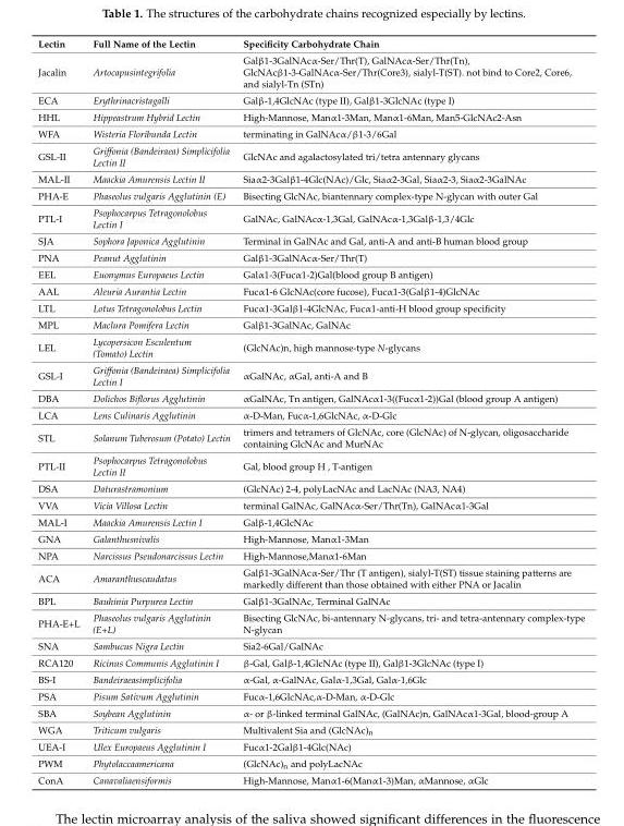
<table><thead><tr><td>Lectin</td><td>Full Name of the Lectin</td><td>Specificity Carbohydrate Chain</td></tr></thead><tbody><tr><td>Jacalin</td><td>Artocapusintegrifolia</td><td>Galβ1-3GalNAcα-Ser/Thr(T), GalNAcα-Ser/Thr(Tn), GlcNAcβ1-3-GalNAcα-Ser/Thr(Core3), sialyl-T(ST). not bind to Core2, Core6, and sialyl-Tn (STn)</td></tr><tr><td>ECA</td><td>Erythrinacristagalli</td><td>Galβ-1,4GlcNAc (type II), Galβ1-3GlcNAc (type I)</td></tr><tr><td>HHL</td><td>Hippeastrum Hybrid Lectin</td><td>High-Mannose, Manα1-3Man, Manα1-6Man, Man5-GlcNAc2-Asn</td></tr><tr><td>WFA</td><td>Wisteria Floribunda Lectin</td><td>terminating in GalNAcα/β1-3/6Gal</td></tr><tr><td>GSL-II</td><td>Griffonia (Bandeiraea) Simplicifolia Lectin II</td><td>GlcNAc and agalactosylated tri/tetra antennary glycans</td></tr><tr><td>MAL-II</td><td>Maackia Amurensis Lectin II</td><td>Siaα2-3Galβ1-4Glc(NAc)/Glc, Siaα2-3Gal, Siaα2-3, Siaα2-3GalNAc</td></tr><tr><td>PHA-E</td><td>Phaseolus vulgaris Agglutinin (E)</td><td>Bisecting GlcNAc, biantennary complex-type N-glycan with outer Gal</td></tr><tr><td>PTL-I</td><td>Psophocarpus Tetragonolobus Lectin I</td><td>GalNAc, GalNAcα-1,3Gal, GalNAcα-1,3Galβ-1,3/4Glc</td></tr><tr><td>SJA</td><td>Sophora Japonica Agglutinin</td><td>Terminal in GalNAc and Gal, anti-A and anti-B human blood group</td></tr><tr><td>PNA</td><td>Peanut Agglutinin</td><td>Galβ1-3GalNAcα-Ser/Thr(T)</td></tr><tr><td>EEL</td><td>Euonymus Europaeus Lectin</td><td>Galα1-3(Fucα1-2)Gal(blood group B antigen)</td></tr><tr><td>AAL</td><td>Aleuria Aurantia Lectin</td><td>Fucα1-6 GlcNAc(core fucose), Fucα1-3(Galβ1-4)GlcNAc</td></tr><tr><td>LTL</td><td>Lotus Tetragonolobus Lectin</td><td>Fucα1-3Galβ1-4GlcNAc, Fucα1-anti-H blood group specificity</td></tr><tr><td>MPL</td><td>Maclura Pomifera Lectin</td><td>Galβ1-3GalNAc, GalNAc</td></tr><tr><td>LEL</td><td>Lycopersicon Esculentum (Tomato) Lectin</td><td>(GlcNAc)n, high mannose-type N-glycans</td></tr><tr><td>GSL-I</td><td>Griffonia (Bandeiraea) Simplicifolia Lectin I</td><td>αGalNAc, αGal, anti-A and B</td></tr><tr><td>DBA</td><td>Dolichos Biflorus Agglutinin</td><td>αGalNAc, Tn antigen, GalNAcα1-3((Fucα1-2))Gal (blood group A antigen)</td></tr><tr><td>LCA</td><td>Lens Culinaris Agglutinin</td><td>α-D-Man, Fucα-1,6GlcNAc, α-D-Glc</td></tr><tr><td>STL</td><td>Solanum Tuberosum (Potato) Lectin</td><td>trimers and tetramers of GlcNAc, core (GlcNAc) of N-glycan, oligosaccharide containing GlcNAc and MurNAc</td></tr><tr><td>PTL-II</td><td>Psophocarpus Tetragonolobus Lectin II</td><td>Gal, blood group H , T-antigen</td></tr><tr><td>DSA</td><td>Daturastramonium</td><td>(GlcNAc) 2-4, polyLacNAc and LacNAc (NA3, NA4)</td></tr><tr><td>VVA</td><td>Vicia Villosa Lectin</td><td>terminal GalNAc, GalNAcα-Ser/Thr(Tn), GalNAcα1-3Gal</td></tr><tr><td>MAL-I</td><td>Maackia Amurensis Lectin I</td><td>Galβ-1,4GlcNAc</td></tr><tr><td>GNA</td><td>Galanthusnivalis</td><td>High-Mannose, Manα1-3Man</td></tr><tr><td>NPA</td><td>Narcissus Pseudonarcissus Lectin</td><td>High-Mannose,Manα1-6Man</td></tr><tr><td>ACA</td><td>Amaranthuscaudatus</td><td>Galβ1-3GalNAcα-Ser/Thr (T antigen), sialyl-T(ST) tissue staining patterns are markedly different than those obtained with either PNA or Jacalin</td></tr><tr><td>BPL</td><td>Bauhinia Purpurea Lectin</td><td>Galβ1-3GalNAc, Terminal GalNAc</td></tr><tr><td>PHA-E+L</td><td>Phaseolus vulgaris Agglutinin (E+L)</td><td>Bisecting GlcNAc, bi-antennary N-glycans, tri- and tetra-antennary complex-type N-glycan</td></tr><tr><td>SNA</td><td>Sambucus Nigra Lectin</td><td>Sia2-6Gal/GalNAc</td></tr><tr><td>RCA120</td><td>Ricinus Communis Agglutinin I</td><td>β-Gal, Galβ-1,4GlcNAc (type II), Galβ1-3GlcNAc (type I)</td></tr><tr><td>BS-I</td><td>Bandeiraeasimplicifolia</td><td>α-Gal, α-GalNAc, Galα-1,3Gal, Galα-1,6Glc</td></tr><tr><td>PSA</td><td>Pisum Sativum Agglutinin</td><td>Fucα-1,6GlcNAc,α-D-Man, α-D-Glc</td></tr><tr><td>SBA</td><td>Soybean Agglutinin</td><td>α- or β-linked terminal GalNAc, (GalNAc)n, GalNAcα1-3Gal, blood-group A</td></tr><tr><td>WGA</td><td>Triticum vulgaris</td><td>Multivalent Sia and (GlcNAc)<sub>n</sub></td></tr><tr><td>UEA-I</td><td>Ulex Europaeus Agglutinin I</td><td>Fucα1-2Galβ1-4Glc(NAc)</td></tr><tr><td>PWM</td><td>Phytolaccaamericana</td><td>(GlcNAc)<sub>n</sub> and polyLacNAc</td></tr><tr><td>ConA</td><td>Canavaliaensiformis</td><td>High-Mannose, Manα1-6(Manα1-3)Man, αMannose, αGlc</td></tr></tbody></table>